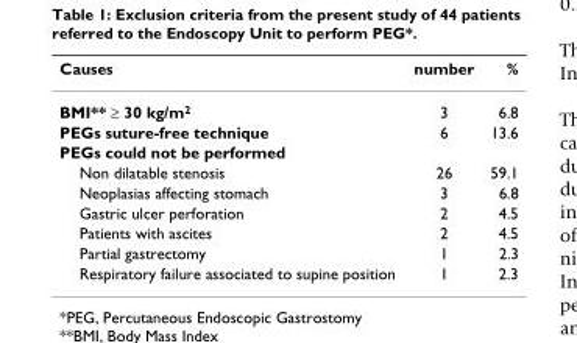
<table><thead><tr><td>Causes</td><td>number</td><td>%</td></tr></thead><tbody><tr><td>BMI** ≥ 30 kg/m<sup>2</sup></td><td>3</td><td>6.8</td></tr><tr><td>PEGs suture-free technique</td><td>6</td><td>13.6</td></tr><tr><td colspan="3">PEGs could not be performed</td></tr><tr><td>Non dilatable stenosis</td><td>26</td><td>59.1</td></tr><tr><td>Neoplasias affecting stomach</td><td>3</td><td>6.8</td></tr><tr><td>Gastric ulcer perforation</td><td>2</td><td>4.5</td></tr><tr><td>Patients with ascites</td><td>2</td><td>4.5</td></tr><tr><td>Partial gastrectomy</td><td>1</td><td>2.3</td></tr><tr><td>Respiratory failure associated to supine position</td><td>1</td><td>2.3</td></tr></tbody></table>